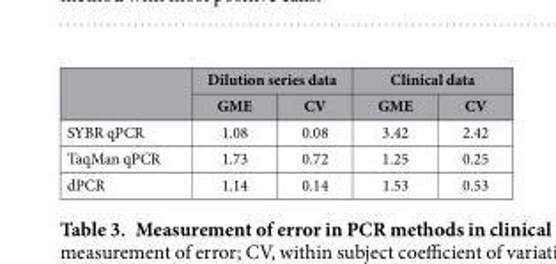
<table><thead><tr><td rowspan="2"></td><td colspan="2">Dilution series data</td><td colspan="2">Clinical data</td></tr><tr><td>GME</td><td>CV</td><td>GME</td><td>CV</td></tr></thead><tbody><tr><td>SYBR qPCR</td><td>1.08</td><td>0.08</td><td>3.42</td><td>2.42</td></tr><tr><td>TaqMan qPCR</td><td>1.73</td><td>0.72</td><td>1.25</td><td>0.25</td></tr><tr><td>dPCR</td><td>1.14</td><td>0.14</td><td>1.53</td><td>0.53</td></tr></tbody></table>